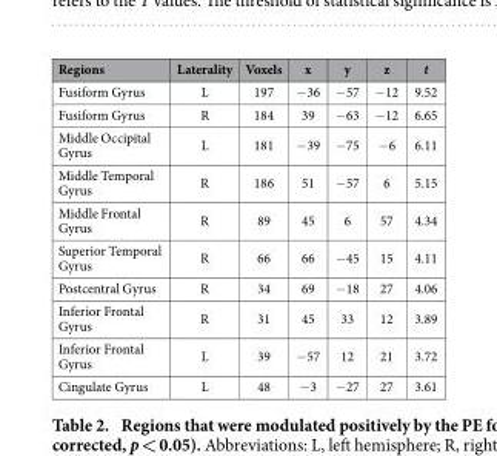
<table><thead><tr><td>Regions</td><td>Laterality</td><td>Voxels</td><td>x</td><td>y</td><td>z</td><td>t</td></tr></thead><tbody><tr><td>Fusiform Gyrus</td><td>L</td><td>197</td><td>− 36</td><td>− 57</td><td>− 12</td><td>9.52</td></tr><tr><td>Fusiform Gyrus</td><td>R</td><td>184</td><td>39</td><td>− 63</td><td>− 12</td><td>6.65</td></tr><tr><td>Middle Occipital Gyrus</td><td>L</td><td>181</td><td>− 39</td><td>− 75</td><td>− 6</td><td>6.11</td></tr><tr><td>Middle Temporal Gyrus</td><td>R</td><td>186</td><td>51</td><td>− 57</td><td>6</td><td>5.15</td></tr><tr><td>Middle Frontal Gyrus</td><td>R</td><td>89</td><td>45</td><td>6</td><td>57</td><td>4.34</td></tr><tr><td>Superior Temporal Gyrus</td><td>R</td><td>66</td><td>66</td><td>− 45</td><td>15</td><td>4.11</td></tr><tr><td>Postcentral Gyrus</td><td>R</td><td>34</td><td>69</td><td>− 18</td><td>27</td><td>4.06</td></tr><tr><td>Inferior Frontal Gyrus</td><td>R</td><td>31</td><td>45</td><td>33</td><td>12</td><td>3.89</td></tr><tr><td>Inferior Frontal Gyrus</td><td>L</td><td>39</td><td>− 57</td><td>12</td><td>21</td><td>3.72</td></tr><tr><td>Cingulate Gyrus</td><td>L</td><td>48</td><td>− 3</td><td>− 27</td><td>27</td><td>3.61</td></tr></tbody></table>